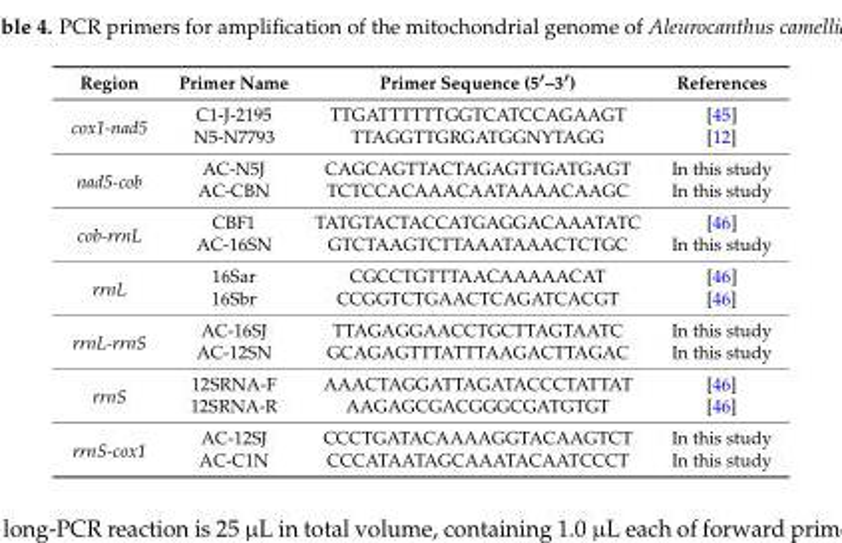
<table><thead><tr><td>Region</td><td>Primer Name</td><td>Primer Sequence (5′–3′)</td><td>References</td></tr></thead><tbody><tr><td rowspan="2">cox1-nad5</td><td>C1-J-2195</td><td>TTGATTTTTTGGTCATCCAGAAGT</td><td>[45]</td></tr><tr><td>N5-N7793</td><td>TTAGGTTGRGATGGNYTAGG</td><td>[12]</td></tr><tr><td rowspan="2">nad5-cob</td><td>AC-N5J</td><td>CAGCAGTTACTAGAGTTGATGAGT</td><td>In this study</td></tr><tr><td>AC-CBN</td><td>TCTCCACAAACAATAAAACAAGC</td><td>In this study</td></tr><tr><td rowspan="2">cob-rrnL</td><td>CBF1</td><td>TATGTACTACCATGAGGACAAATATC</td><td>[46]</td></tr><tr><td>AC-16SN</td><td>GTCTAAGTCTTAAATAAACTCTGC</td><td>In this study</td></tr><tr><td rowspan="2">rrnL</td><td>16Sar</td><td>CGCCTGTTTAACAAAAACAT</td><td>[46]</td></tr><tr><td>16Sbr</td><td>CCGGTCTGAACTCAGATCACGT</td><td>[46]</td></tr><tr><td rowspan="2">rrnL-rrnS</td><td>AC-16SJ</td><td>TTAGAGGAACCTGCTTAGTAATC</td><td>In this study</td></tr><tr><td>AC-12SN</td><td>GCAGAGTTTATTTAAGACTTAGAC</td><td>In this study</td></tr><tr><td rowspan="2">rrnS</td><td>12SRNA-F</td><td>AAACTAGGATTAGATACCCTATTAT</td><td>[46]</td></tr><tr><td>12SRNA-R</td><td>AAGAGCGACGGGCGATGTGT</td><td>[46]</td></tr><tr><td rowspan="2">rrnS-cox1</td><td>AC-12SJ</td><td>CCCTGATACAAAAGGTACAAGTCT</td><td>In this study</td></tr><tr><td>AC-C1N</td><td>CCCATAATAGCAAATACAATCCCT</td><td>In this study</td></tr></tbody></table>